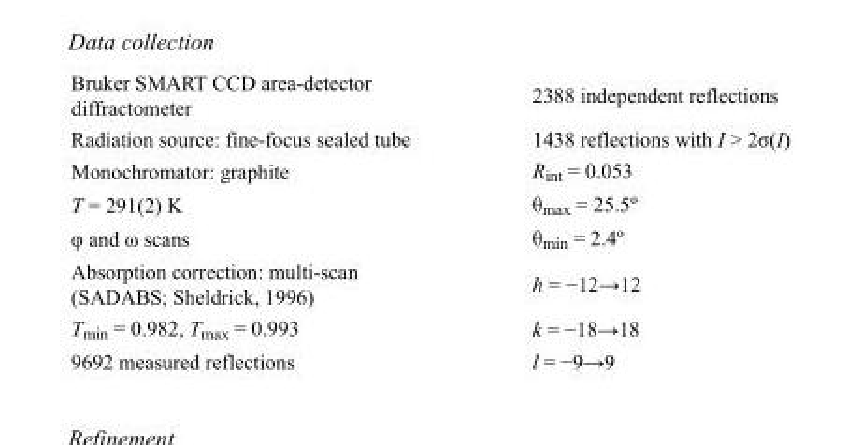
<table><tbody><tr><td>Bruker SMART CCD area-detector diffractometer</td><td>2388 independent reflections</td></tr><tr><td>Radiation source: fine-focus sealed tube</td><td>1438 reflections with I &gt; 2σ(I)</td></tr><tr><td>Monochromator: graphite</td><td>R<sub>int</sub> = 0.053</td></tr><tr><td>T = 291(2) K</td><td>θ<sub>max</sub> = 25.5º</td></tr><tr><td>φ and ω scans</td><td>θ<sub>min</sub> = 2.4º</td></tr><tr><td>Absorption correction: multi-scan (SADABS; Sheldrick, 1996)</td><td>h = −12→12</td></tr><tr><td>T<sub>min</sub> = 0.982, T<sub>max</sub> = 0.993</td><td>k = −18→18</td></tr><tr><td>9692 measured reflections</td><td>l = −9→9</td></tr></tbody></table>